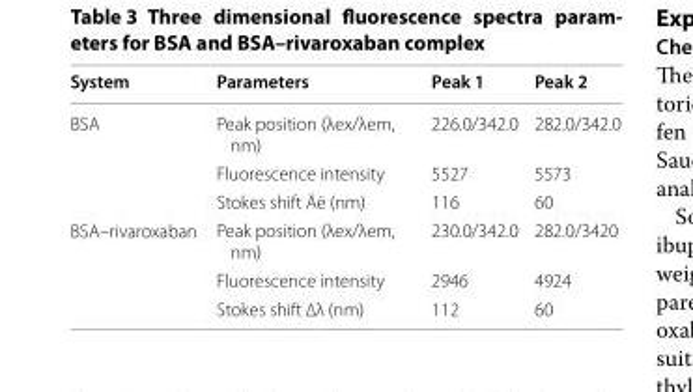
<table><thead><tr><td>System</td><td>Parameters</td><td>Peak 1</td><td>Peak 2</td></tr></thead><tbody><tr><td rowspan="3">BSA</td><td>Peak position (λex/λem, nm)</td><td>226.0/342.0</td><td>282.0/342.0</td></tr><tr><td>Fluorescence intensity</td><td>5527</td><td>5573</td></tr><tr><td>Stokes shift Äë (nm)</td><td>116</td><td>60</td></tr><tr><td rowspan="3">BSA–rivaroxaban</td><td>Peak position (λex/λem, nm)</td><td>230.0/342.0</td><td>282.0/3420</td></tr><tr><td>Fluorescence intensity</td><td>2946</td><td>4924</td></tr><tr><td>Stokes shift ∆λ (nm)</td><td>112</td><td>60</td></tr></tbody></table>